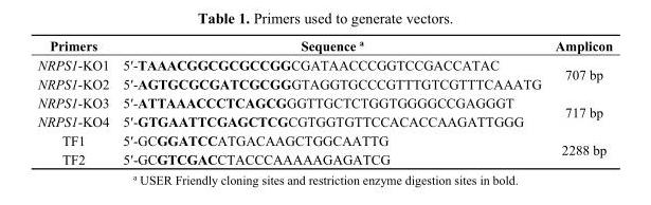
<table><thead><tr><td>Primers</td><td>Sequence <sup>a</sup></td><td>Amplicon</td></tr></thead><tbody><tr><td>NRPS1-KO1</td><td>5′-TAAACGGCGCGCCGGCGATAACCCGGTCCGACCATAC</td><td rowspan="2">707 bp</td></tr><tr><td>NRPS1-KO2</td><td>5′-AGTGCGCGATCGCGGGTAGGTGCCCGTTTGTCGTTTCAAATG</td></tr><tr><td>NRPS1-KO3</td><td>5′-ATTAAACCCTCAGCGGGTTGCTCTGGTGGGGCCGAGGGT</td><td rowspan="2">717 bp</td></tr><tr><td>NRPS1-KO4</td><td>5′-GTGAATTCGAGCTCGCGTGGTGTTCCACACCAAGATTGGG</td></tr><tr><td>TF1</td><td>5′-GCGGATCCATGACAAGCTGGCAATTG</td><td rowspan="2">2288 bp</td></tr><tr><td>TF2</td><td>5′-GCGTCGACCTACCCAAAAAGAGATCG</td></tr></tbody></table>